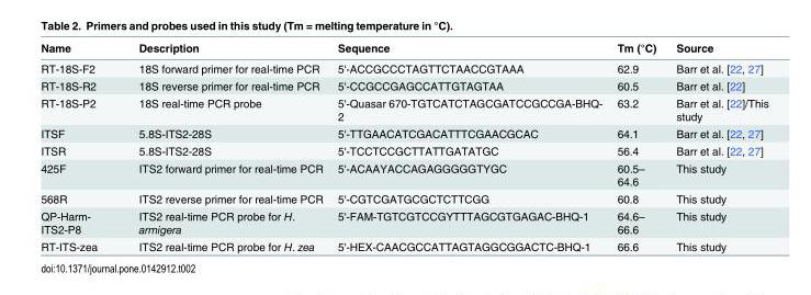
<table><thead><tr><td>Name</td><td>Description</td><td>Sequence</td><td>Tm (°C)</td><td>Source</td></tr></thead><tbody><tr><td>RT-18S-F2</td><td>18S forward primer for real-time PCR</td><td>5&#x27;-ACCGCCCTAGTTCTAACCGTAAA</td><td>62.9</td><td>Barr et al. [22, 27]</td></tr><tr><td>RT-18S-R2</td><td>18S reverse primer for real-time PCR</td><td>5&#x27;-CCGCCGAGCCATTGTAGTAA</td><td>60.5</td><td>Barr et al. [22]</td></tr><tr><td>RT-18S-P2</td><td>18S real-time PCR probe</td><td>5&#x27;-Quasar 670-TGTCATCTAGCGATCCGCCGA-BHQ- 2</td><td>63.2</td><td>Barr et al. [22]/This study</td></tr><tr><td>ITSF</td><td>5.8S-ITS2-28S</td><td>5&#x27;-TTGAACATCGACATTTCGAACGCAC</td><td>64.1</td><td>Barr et al. [22, 27]</td></tr><tr><td>ITSR</td><td>5.8S-ITS2-28S</td><td>5&#x27;-TCCTCCGCTTATTGATATGC</td><td>56.4</td><td>Barr et al. [22, 27]</td></tr><tr><td>425F</td><td>ITS2 forward primer for real-time PCR</td><td>5&#x27;-ACAAYACCAGAGGGGGTYGC</td><td>60.5– 64.6</td><td>This study</td></tr><tr><td>568R</td><td>ITS2 reverse primer for real-time PCR</td><td>5&#x27;-CGTCGATGCGCTCTTCGG</td><td>60.8</td><td>This study</td></tr><tr><td>QP-Harm- ITS2-P8</td><td>ITS2 real-time PCR probe for H. armigera</td><td>5&#x27;-FAM-TGTCGTCCGYTTTAGCGTGAGAC-BHQ-1</td><td>64.6– 66.6</td><td>This study</td></tr><tr><td>RT-ITS-zea</td><td>ITS2 real-time PCR probe for H. zea</td><td>5&#x27;-HEX-CAACGCCATTAGTAGGCGGACTC-BHQ-1</td><td>66.6</td><td>This study</td></tr></tbody></table>